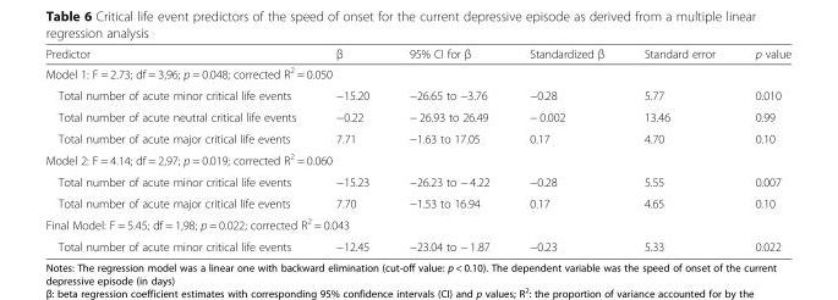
<table><thead><tr><td>Predictor</td><td>β</td><td>95% CI for β</td><td>Standardized β</td><td>Standard error</td><td>p value</td></tr></thead><tbody><tr><td colspan="6">Model 1: F = 2.73; df = 3,96; p = 0.048; corrected R<sup>2</sup> = 0.050</td></tr><tr><td>Total number of acute minor critical life events</td><td>−15.20</td><td>−26.65 to −3.76</td><td>−0.28</td><td>5.77</td><td>0.010</td></tr><tr><td>Total number of acute neutral critical life events</td><td>−0.22</td><td>− 26.93 to 26.49</td><td>− 0.002</td><td>13.46</td><td>0.99</td></tr><tr><td>Total number of acute major critical life events</td><td>7.71</td><td>−1.63 to 17.05</td><td>0.17</td><td>4.70</td><td>0.10</td></tr><tr><td colspan="6">Model 2: F = 4.14; df = 2,97; p = 0.019; corrected R<sup>2</sup> = 0.060</td></tr><tr><td>Total number of acute minor critical life events</td><td>−15.23</td><td>−26.23 to − 4.22</td><td>−0.28</td><td>5.55</td><td>0.007</td></tr><tr><td>Total number of acute major critical life events</td><td>7.70</td><td>−1.53 to 16.94</td><td>0.17</td><td>4.65</td><td>0.10</td></tr><tr><td colspan="6">Final Model: F = 5.45; df = 1,98; p = 0.022; corrected R<sup>2</sup> = 0.043</td></tr><tr><td>Total number of acute minor critical life events</td><td>−12.45</td><td>−23.04 to − 1.87</td><td>−0.23</td><td>5.33</td><td>0.022</td></tr></tbody></table>